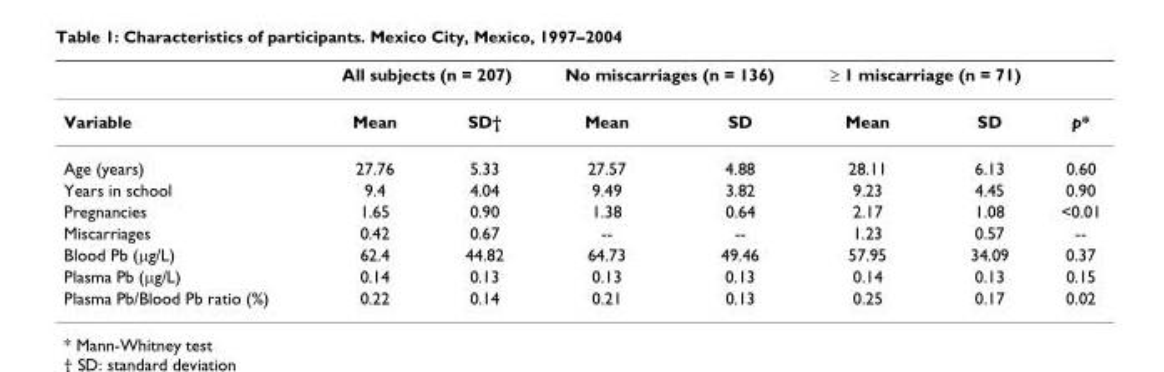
<table><thead><tr><td rowspan="2">Variable</td><td colspan="2">All subjects (n = 207)</td><td colspan="2">No miscarriages (n = 136)</td><td colspan="2">≥ 1 miscarriage (n = 71)</td><td rowspan="2">p*</td></tr><tr><td>Mean</td><td>SD†</td><td>Mean</td><td>SD</td><td>Mean</td><td>SD</td></tr></thead><tbody><tr><td>Age (years)</td><td>27.76</td><td>5.33</td><td>27.57</td><td>4.88</td><td>28.11</td><td>6.13</td><td>0.60</td></tr><tr><td>Years in school</td><td>9.4</td><td>4.04</td><td>9.49</td><td>3.82</td><td>9.23</td><td>4.45</td><td>0.90</td></tr><tr><td>Pregnancies</td><td>1.65</td><td>0.90</td><td>1.38</td><td>0.64</td><td>2.17</td><td>1.08</td><td>&lt;0.01</td></tr><tr><td>Miscarriages</td><td>0.42</td><td>0.67</td><td>--</td><td>--</td><td>1.23</td><td>0.57</td><td>--</td></tr><tr><td>Blood Pb (µg/L)</td><td>62.4</td><td>44.82</td><td>64.73</td><td>49.46</td><td>57.95</td><td>34.09</td><td>0.37</td></tr><tr><td>Plasma Pb (µg/L)</td><td>0.14</td><td>0.13</td><td>0.13</td><td>0.13</td><td>0.14</td><td>0.13</td><td>0.15</td></tr><tr><td>Plasma Pb/Blood Pb ratio (%)</td><td>0.22</td><td>0.14</td><td>0.21</td><td>0.13</td><td>0.25</td><td>0.17</td><td>0.02</td></tr></tbody></table>